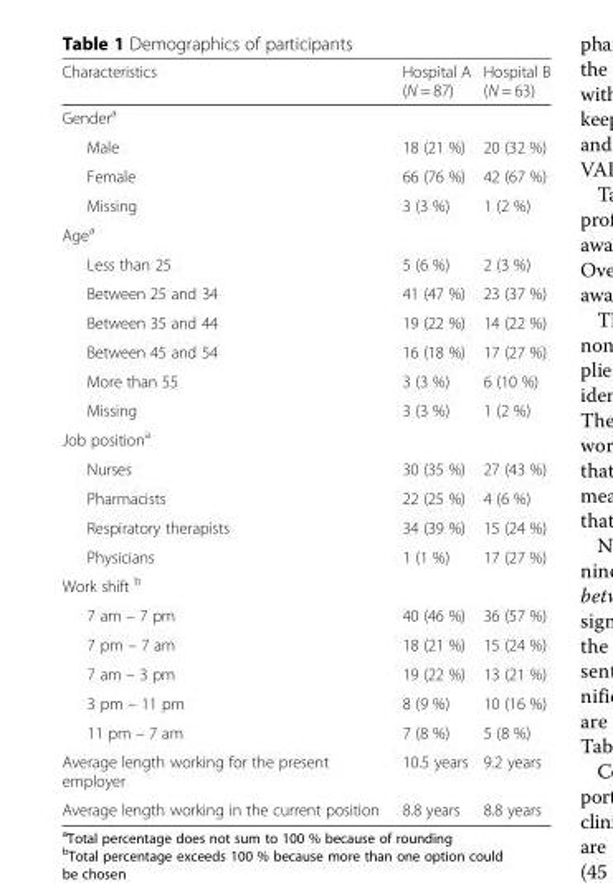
<table><thead><tr><td>Characteristics</td><td>Hospital A (N = 87)</td><td>Hospital B (N = 63)</td></tr></thead><tbody><tr><td colspan="3">Gender<sup>a</sup></td></tr><tr><td>Male</td><td>18 (21 %)</td><td>20 (32 %)</td></tr><tr><td>Female</td><td>66 (76 %)</td><td>42 (67 %)</td></tr><tr><td>Missing</td><td>3 (3 %)</td><td>1 (2 %)</td></tr><tr><td colspan="3">Age<sup>a</sup></td></tr><tr><td>Less than 25</td><td>5 (6 %)</td><td>2 (3 %)</td></tr><tr><td>Between 25 and 34</td><td>41 (47 %)</td><td>23 (37 %)</td></tr><tr><td>Between 35 and 44</td><td>19 (22 %)</td><td>14 (22 %)</td></tr><tr><td>Between 45 and 54</td><td>16 (18 %)</td><td>17 (27 %)</td></tr><tr><td>More than 55</td><td>3 (3 %)</td><td>6 (10 %)</td></tr><tr><td>Missing</td><td>3 (3 %)</td><td>1 (2 %)</td></tr><tr><td colspan="3">Job position<sup>a</sup></td></tr><tr><td>Nurses</td><td>30 (35 %)</td><td>27 (43 %)</td></tr><tr><td>Pharmacists</td><td>22 (25 %)</td><td>4 (6 %)</td></tr><tr><td>Respiratory therapists</td><td>34 (39 %)</td><td>15 (24 %)</td></tr><tr><td>Physicians</td><td>1 (1 %)</td><td>17 (27 %)</td></tr><tr><td colspan="3">Work shift <sup>b</sup></td></tr><tr><td>7 am – 7 pm</td><td>40 (46 %)</td><td>36 (57 %)</td></tr><tr><td>7 pm – 7 am</td><td>18 (21 %)</td><td>15 (24 %)</td></tr><tr><td>7 am – 3 pm</td><td>19 (22 %)</td><td>13 (21 %)</td></tr><tr><td>3 pm – 11 pm</td><td>8 (9 %)</td><td>10 (16 %)</td></tr><tr><td>11 pm – 7 am</td><td>7 (8 %)</td><td>5 (8 %)</td></tr><tr><td>Average length working for the present employer</td><td>10.5 years</td><td>9.2 years</td></tr><tr><td>Average length working in the current position</td><td>8.8 years</td><td>8.8 years</td></tr></tbody></table>